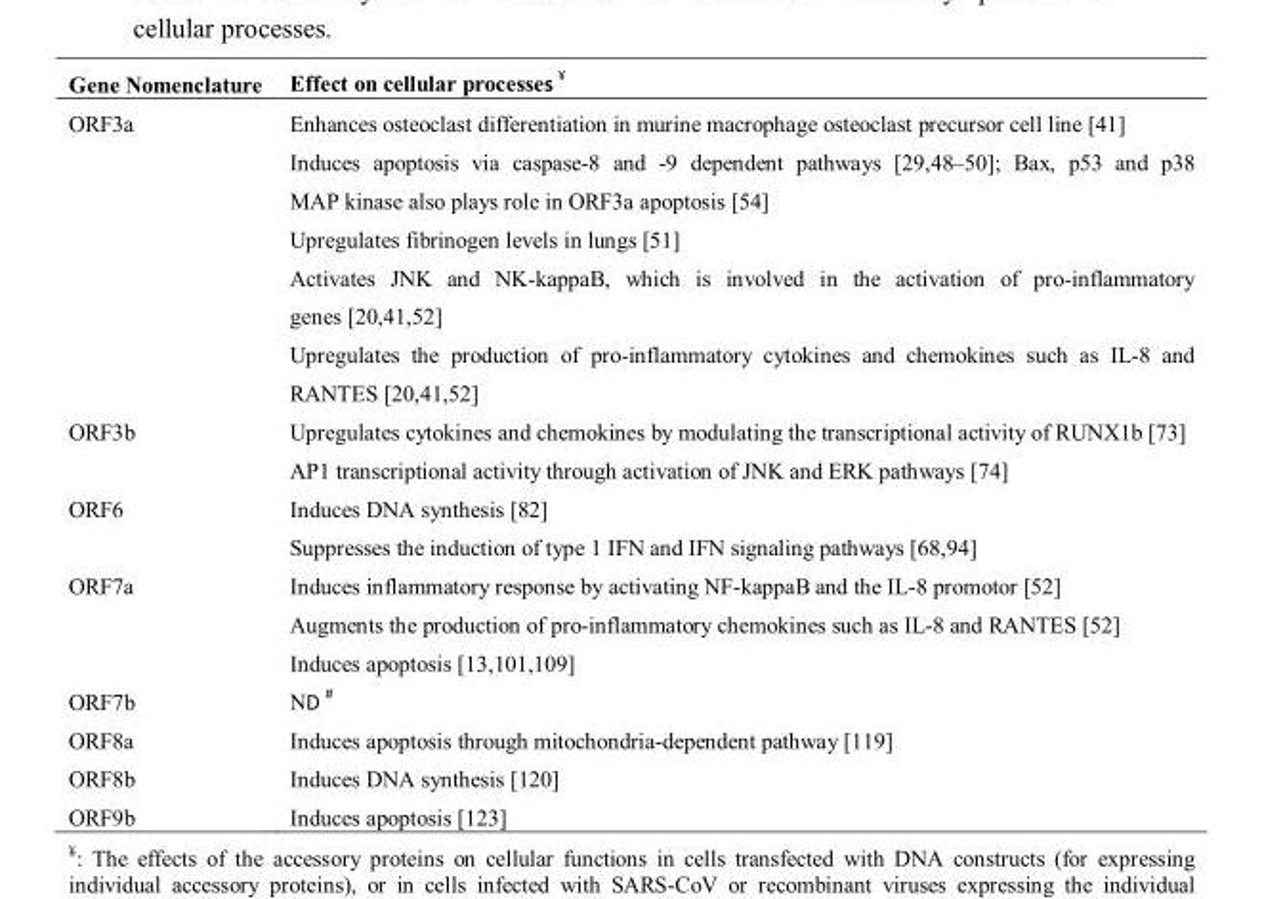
<table><thead><tr><td>Gene Nomenclature</td><td>Effect on cellular processes <sup>¥</sup></td></tr></thead><tbody><tr><td rowspan="5">ORF3a</td><td>Enhances osteoclast differentiation in murine macrophage osteoclast precursor cell line [41]</td></tr><tr><td>Induces apoptosis via caspase-8 and -9 dependent pathways [29,48–50]; Bax, p53 and p38 MAP kinase also plays role in ORF3a apoptosis [54]</td></tr><tr><td>Upregulates fibrinogen levels in lungs [51]</td></tr><tr><td>Activates JNK and NK-kappaB, which is involved in the activation of pro-inflammatory genes [20,41,52]</td></tr><tr><td>Upregulates the production of pro-inflammatory cytokines and chemokines such as IL-8 and RANTES [20,41,52]</td></tr><tr><td rowspan="2">ORF3b</td><td>Upregulates cytokines and chemokines by modulating the transcriptional activity of RUNX1b [73]</td></tr><tr><td>AP1 transcriptional activity through activation of JNK and ERK pathways [74]</td></tr><tr><td rowspan="2">ORF6</td><td>Induces DNA synthesis [82]</td></tr><tr><td>Suppresses the induction of type 1 IFN and IFN signaling pathways [68,94]</td></tr><tr><td rowspan="3">ORF7a</td><td>Induces inflammatory response by activating NF-kappaB and the IL-8 promotor [52]</td></tr><tr><td>Augments the production of pro-inflammatory chemokines such as IL-8 and RANTES [52]</td></tr><tr><td>Induces apoptosis [13,101,109]</td></tr><tr><td>ORF7b</td><td>ND <sup>#</sup></td></tr><tr><td>ORF8a</td><td>Induces apoptosis through mitochondria-dependent pathway [119]</td></tr><tr><td>ORF8b</td><td>Induces DNA synthesis [120]</td></tr><tr><td>ORF9b</td><td>Induces apoptosis [123]</td></tr></tbody></table>